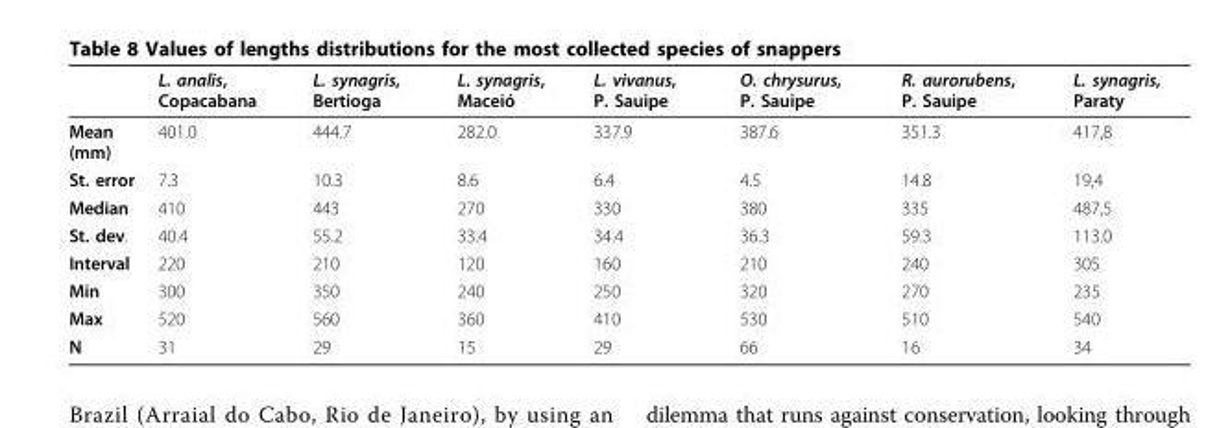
<table><thead><tr><td></td><td>L. analis, Copacabana</td><td>L. synagris, Bertioga</td><td>L. synagris, Maceió</td><td>L. vivanus, P. Sauipe</td><td>O. chrysurus, P. Sauipe</td><td>R. aurorubens, P. Sauipe</td><td>L. synagris, Paraty</td></tr></thead><tbody><tr><td>Mean (mm)</td><td>401.0</td><td>444.7</td><td>282.0</td><td>337.9</td><td>387.6</td><td>351.3</td><td>417,8</td></tr><tr><td>St. error</td><td>7.3</td><td>10.3</td><td>8.6</td><td>6.4</td><td>4.5</td><td>14.8</td><td>19,4</td></tr><tr><td>Median</td><td>410</td><td>443</td><td>270</td><td>330</td><td>380</td><td>335</td><td>487,5</td></tr><tr><td>St. dev.</td><td>40.4</td><td>55.2</td><td>33.4</td><td>34.4</td><td>36.3</td><td>59.3</td><td>113.0</td></tr><tr><td>Interval</td><td>220</td><td>210</td><td>120</td><td>160</td><td>210</td><td>240</td><td>305</td></tr><tr><td>Min</td><td>300</td><td>350</td><td>240</td><td>250</td><td>320</td><td>270</td><td>235</td></tr><tr><td>Max</td><td>520</td><td>560</td><td>360</td><td>410</td><td>530</td><td>510</td><td>540</td></tr><tr><td>N</td><td>31</td><td>29</td><td>15</td><td>29</td><td>66</td><td>16</td><td>34</td></tr></tbody></table>